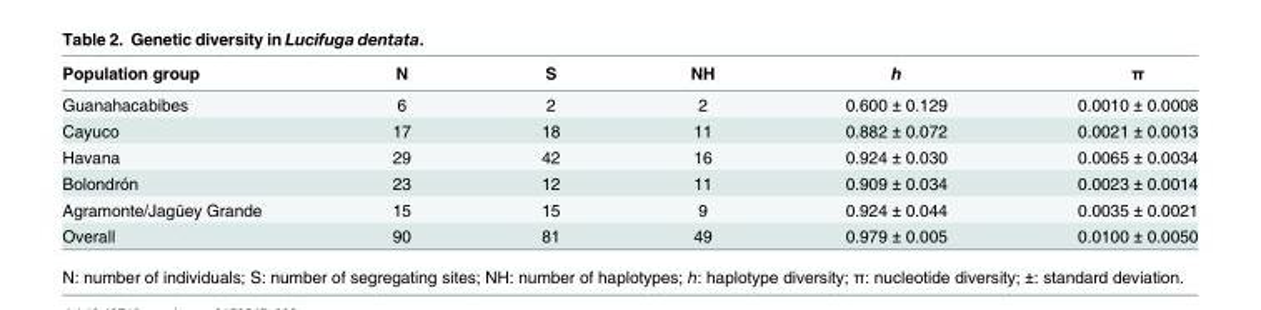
<table><thead><tr><td>Population group</td><td>N</td><td>S</td><td>NH</td><td>h</td><td>π</td></tr></thead><tbody><tr><td>Guanahacabibes</td><td>6</td><td>2</td><td>2</td><td>0.600 ± 0.129</td><td>0.0010 ± 0.0008</td></tr><tr><td>Cayuco</td><td>17</td><td>18</td><td>11</td><td>0.882 ± 0.072</td><td>0.0021 ± 0.0013</td></tr><tr><td>Havana</td><td>29</td><td>42</td><td>16</td><td>0.924 ± 0.030</td><td>0.0065 ± 0.0034</td></tr><tr><td>Bolondrón</td><td>23</td><td>12</td><td>11</td><td>0.909 ± 0.034</td><td>0.0023 ± 0.0014</td></tr><tr><td>Agramonte/Jagüey Grande</td><td>15</td><td>15</td><td>9</td><td>0.924 ± 0.044</td><td>0.0035 ± 0.0021</td></tr><tr><td>Overall</td><td>90</td><td>81</td><td>49</td><td>0.979 ± 0.005</td><td>0.0100 ± 0.0050</td></tr></tbody></table>